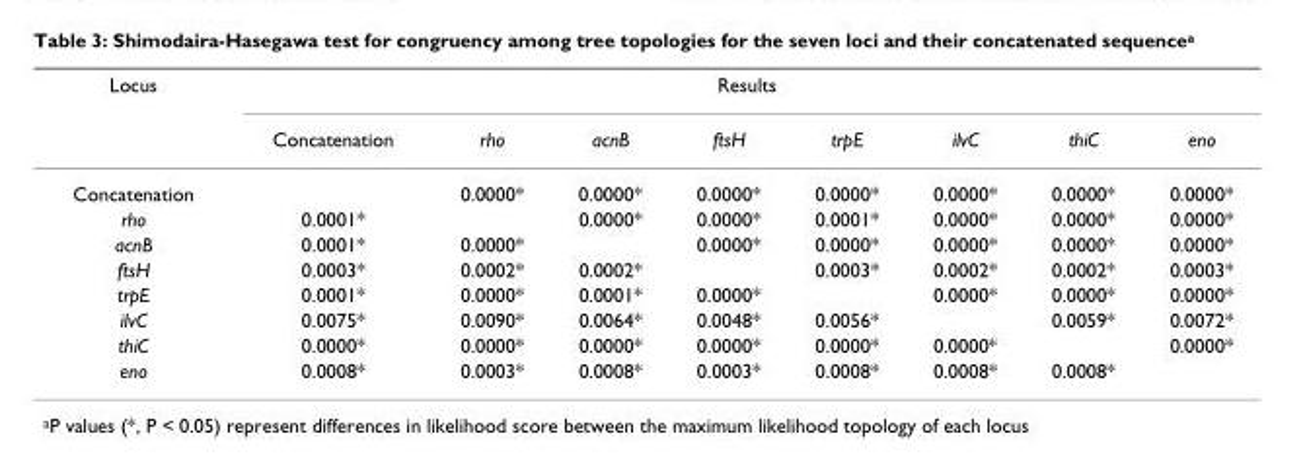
<table><thead><tr><td rowspan="2">Locus</td><td colspan="8">Results</td></tr><tr><td>Concatenation</td><td>rho</td><td>acnB</td><td>ftsH</td><td>trpE</td><td>ilvC</td><td>thiC</td><td>eno</td></tr></thead><tbody><tr><td>Concatenation</td><td></td><td>0.0000*</td><td>0.0000*</td><td>0.0000*</td><td>0.0000*</td><td>0.0000*</td><td>0.0000*</td><td>0.0000*</td></tr><tr><td>rho</td><td>0.0001*</td><td></td><td>0.0000*</td><td>0.0000*</td><td>0.0001*</td><td>0.0000*</td><td>0.0000*</td><td>0.0000*</td></tr><tr><td>acnB</td><td>0.0001*</td><td>0.0000*</td><td></td><td>0.0000*</td><td>0.0000*</td><td>0.0000*</td><td>0.0000*</td><td>0.0000*</td></tr><tr><td>ftsH</td><td>0.0003*</td><td>0.0002*</td><td>0.0002*</td><td></td><td>0.0003*</td><td>0.0002*</td><td>0.0002*</td><td>0.0003*</td></tr><tr><td>trpE</td><td>0.0001*</td><td>0.0000*</td><td>0.0001*</td><td>0.0000*</td><td></td><td>0.0000*</td><td>0.0000*</td><td>0.0000*</td></tr><tr><td>ilvC</td><td>0.0075*</td><td>0.0090*</td><td>0.0064*</td><td>0.0048*</td><td>0.0056*</td><td></td><td>0.0059*</td><td>0.0072*</td></tr><tr><td>thiC</td><td>0.0000*</td><td>0.0000*</td><td>0.0000*</td><td>0.0000*</td><td>0.0000*</td><td>0.0000*</td><td></td><td>0.0000*</td></tr><tr><td>eno</td><td>0.0008*</td><td>0.0003*</td><td>0.0008*</td><td>0.0003*</td><td>0.0008*</td><td>0.0008*</td><td>0.0008*</td><td></td></tr></tbody></table>